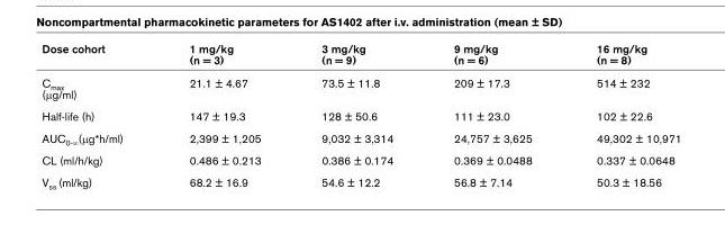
<table><thead><tr><td>Dose cohort</td><td>1 mg/kg (n = 3)</td><td>3 mg/kg (n = 9)</td><td>9 mg/kg (n = 6)</td><td>16 mg/kg (n = 8)</td></tr></thead><tbody><tr><td>C<sub>max</sub> (μg/ml)</td><td>21.1 ± 4.67</td><td>73.5 ± 11.8</td><td>209 ± 17.3</td><td>514 ± 232</td></tr><tr><td>Half-life (h)</td><td>147 ± 19.3</td><td>128 ± 50.6</td><td>111 ± 23.0</td><td>102 ± 22.6</td></tr><tr><td>AUC<sub>0-∞</sub>(μg*h/ml)</td><td>2,399 ± 1,205</td><td>9,032 ± 3,314</td><td>24,757 ± 3,625</td><td>49,302 ± 10,971</td></tr><tr><td>CL (ml/h/kg)</td><td>0.486 ± 0.213</td><td>0.386 ± 0.174</td><td>0.369 ± 0.0488</td><td>0.337 ± 0.0648</td></tr><tr><td>V<sub>ss</sub> (ml/kg)</td><td>68.2 ± 16.9</td><td>54.6 ± 12.2</td><td>56.8 ± 7.14</td><td>50.3 ± 18.56</td></tr></tbody></table>